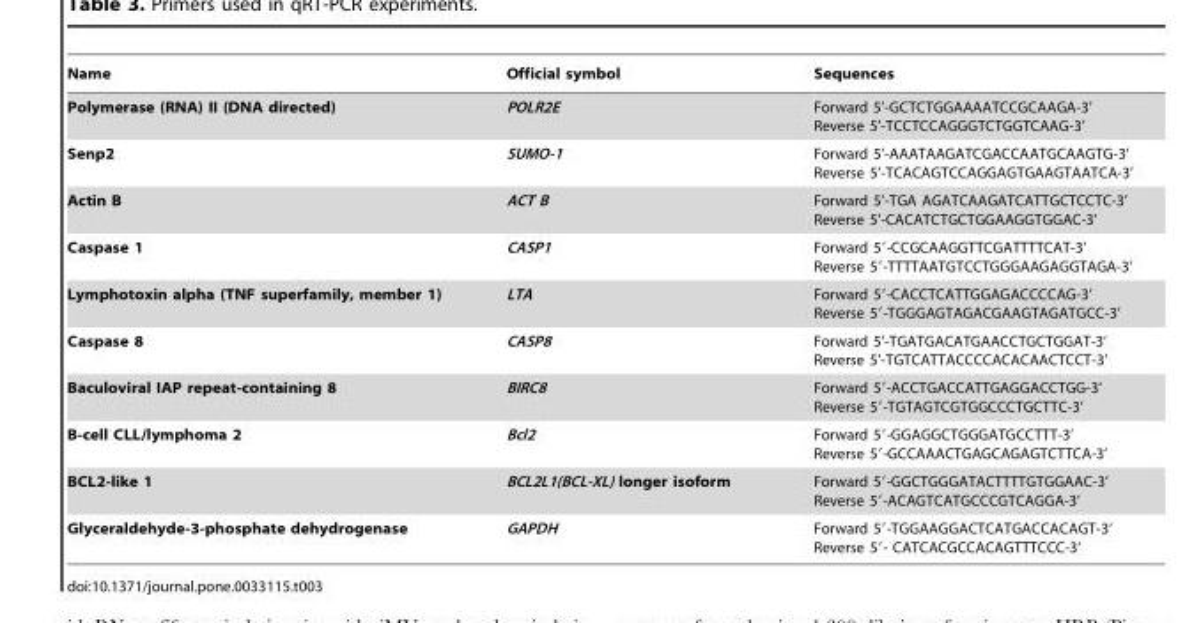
<table><thead><tr><td>Name</td><td>Official symbol</td><td>Sequences</td></tr></thead><tbody><tr><td>Polymerase (RNA) II (DNA directed)</td><td>POLR2E</td><td>Forward 5’-GCTCTGGAAAATCCGCAAGA-3’ Reverse 5’-TCCTCCAGGGTCTGGTCAAG-3’</td></tr><tr><td>Senp2</td><td>SUMO-1</td><td>Forward 5’-AAATAAGATCGACCAATGCAAGTG-3’ Reverse 5’-TCACAGTCCAGGAGTGAAGTAATCA-3’</td></tr><tr><td>Actin B</td><td>ACT B</td><td>Forward 5’-TGA AGATCAAGATCATTGCTCCTC-3’ Reverse 5’-CACATCTGCTGGAAGGTGGAC-3’</td></tr><tr><td>Caspase 1</td><td>CASP1</td><td>Forward 5′-CCGCAAGGTTCGATTTTCAT-3’ Reverse 5′-TTTTAATGTCCTGGGAAGAGGTAGA-3’</td></tr><tr><td>Lymphotoxin alpha (TNF superfamily, member 1)</td><td>LTA</td><td>Forward 5′-CACCTCATTGGAGACCCCAG-3’ Reverse 5′-TGGGAGTAGACGAAGTAGATGCC-3’</td></tr><tr><td>Caspase 8</td><td>CASP8</td><td>Forward 5’-TGATGACATGAACCTGCTGGAT-3’ Reverse 5’-TGTCATTACCCCACACAACTCCT-3’</td></tr><tr><td>Baculoviral IAP repeat-containing 8</td><td>BIRC8</td><td>Forward 5′-ACCTGACCATTGAGGACCTGG-3’ Reverse 5′-TGTAGTCGTGGCCCTGCTTC-3’</td></tr><tr><td>B-cell CLL/lymphoma 2</td><td>Bcl2</td><td>Forward 5′-GGAGGCTGGGATGCCTTT-3’ Reverse 5′-GCCAAACTGAGCAGAGTCTTCA-3’</td></tr><tr><td>BCL2-like 1</td><td>BCL2L1(BCL-XL) longer isoform</td><td>Forward 5′-GGCTGGGATACTTTTGTGGAAC-3’ Reverse 5′-ACAGTCATGCCCGTCAGGA-3’</td></tr><tr><td>Glyceraldehyde-3-phosphate dehydrogenase</td><td>GAPDH</td><td>Forward 5′-TGGAAGGACTCATGACCACAGT-3‘ Reverse 5′- CATCACGCCACAGTTTCCC-3‘</td></tr></tbody></table>